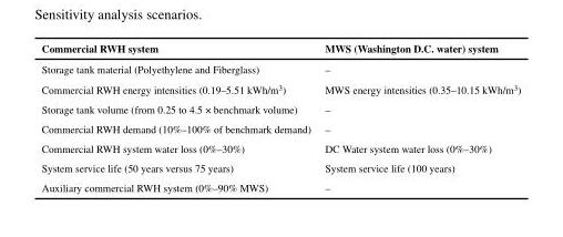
<table><thead><tr><td>Commercial RWH system</td><td>MWS (Washington D.C. water) system</td></tr></thead><tbody><tr><td>Storage tank material (Polyethylene and Fiberglass)</td><td>–</td></tr><tr><td>Commercial RWH energy intensities (0.19–5.51 kWh/m<sup>3</sup>)</td><td>MWS energy intensities (0.35–10.15 kWh/m<sup>3</sup>)</td></tr><tr><td>Storage tank volume (from 0.25 to 4.5 × benchmark volume)</td><td>–</td></tr><tr><td>Commercial RWH demand (10%–100% of benchmark demand)</td><td>–</td></tr><tr><td>Commercial RWH system water loss (0%–30%)</td><td>DC Water system water loss (0%–30%)</td></tr><tr><td>System service life (50 years versus 75 years)</td><td>System service life (100 years)</td></tr><tr><td>Auxiliary commercial RWH system (0%–90% MWS)</td><td>–</td></tr></tbody></table>